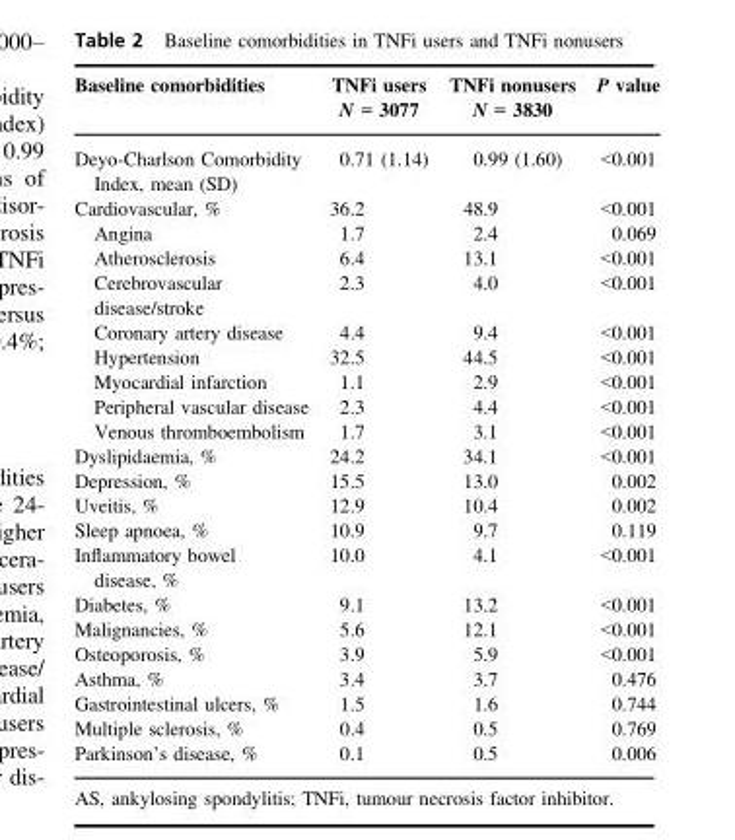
<table><thead><tr><td>Baseline comorbidities</td><td>TNFi users N = 3077</td><td>TNFi nonusers N = 3830</td><td>P value</td></tr></thead><tbody><tr><td>Deyo-Charlson Comorbidity Index, mean (SD)</td><td>0.71 (1.14)</td><td>0.99 (1.60)</td><td>&lt;0.001</td></tr><tr><td>Cardiovascular, %</td><td>36.2</td><td>48.9</td><td>&lt;0.001</td></tr><tr><td>Angina</td><td>1.7</td><td>2.4</td><td>0.069</td></tr><tr><td>Atherosclerosis</td><td>6.4</td><td>13.1</td><td>&lt;0.001</td></tr><tr><td>Cerebrovascular disease/stroke</td><td>2.3</td><td>4.0</td><td>&lt;0.001</td></tr><tr><td>Coronary artery disease</td><td>4.4</td><td>9.4</td><td>&lt;0.001</td></tr><tr><td>Hypertension</td><td>32.5</td><td>44.5</td><td>&lt;0.001</td></tr><tr><td>Myocardial infarction</td><td>1.1</td><td>2.9</td><td>&lt;0.001</td></tr><tr><td>Peripheral vascular disease</td><td>2.3</td><td>4.4</td><td>&lt;0.001</td></tr><tr><td>Venous thromboembolism</td><td>1.7</td><td>3.1</td><td>&lt;0.001</td></tr><tr><td>Dyslipidaemia, %</td><td>24.2</td><td>34.1</td><td>&lt;0.001</td></tr><tr><td>Depression, %</td><td>15.5</td><td>13.0</td><td>0.002</td></tr><tr><td>Uveitis, %</td><td>12.9</td><td>10.4</td><td>0.002</td></tr><tr><td>Sleep apnoea, %</td><td>10.9</td><td>9.7</td><td>0.119</td></tr><tr><td>Inflammatory bowel disease, %</td><td>10.0</td><td>4.1</td><td>&lt;0.001</td></tr><tr><td>Diabetes, %</td><td>9.1</td><td>13.2</td><td>&lt;0.001</td></tr><tr><td>Malignancies, %</td><td>5.6</td><td>12.1</td><td>&lt;0.001</td></tr><tr><td>Osteoporosis, %</td><td>3.9</td><td>5.9</td><td>&lt;0.001</td></tr><tr><td>Asthma, %</td><td>3.4</td><td>3.7</td><td>0.476</td></tr><tr><td>Gastrointestinal ulcers, %</td><td>1.5</td><td>1.6</td><td>0.744</td></tr><tr><td>Multiple sclerosis, %</td><td>0.4</td><td>0.5</td><td>0.769</td></tr><tr><td>Parkinson’s disease, %</td><td>0.1</td><td>0.5</td><td>0.006</td></tr></tbody></table>